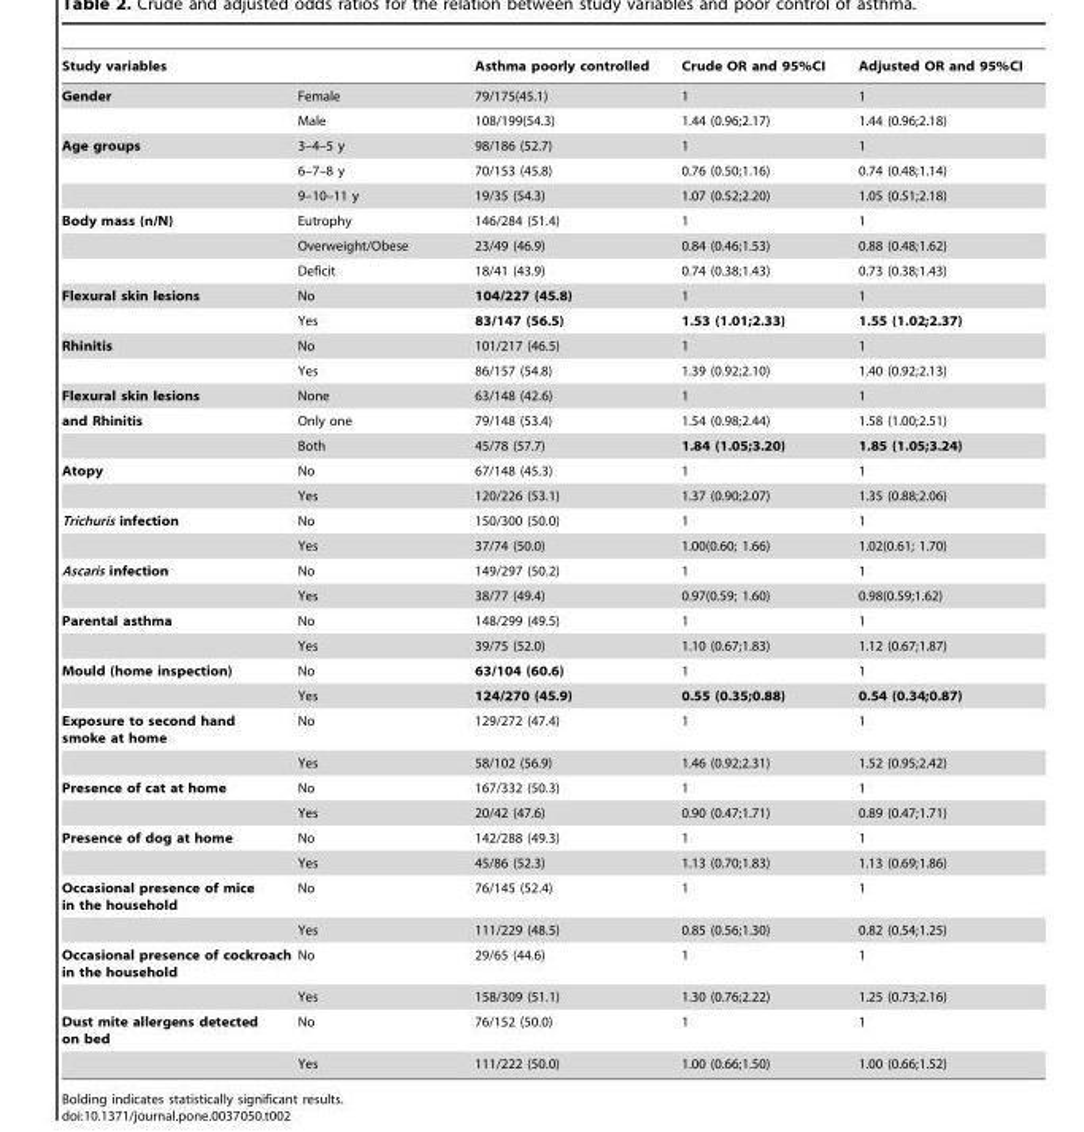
<table><thead><tr><td>Study variables</td><td></td><td>Asthma poorly controlled</td><td>Crude OR and 95%CI</td><td>Adjusted OR and 95%CI</td></tr></thead><tbody><tr><td rowspan="2">Gender</td><td>Female</td><td>79/175(45.1)</td><td>1</td><td>1</td></tr><tr><td>Male</td><td>108/199(54.3)</td><td>1.44 (0.96;2.17)</td><td>1.44 (0.96;2.18)</td></tr><tr><td rowspan="3">Age groups</td><td>3–4–5 y</td><td>98/186 (52.7)</td><td>1</td><td>1</td></tr><tr><td>6–7–8 y</td><td>70/153 (45.8)</td><td>0.76 (0.50;1.16)</td><td>0.74 (0.48;1.14)</td></tr><tr><td>9–10–11 y</td><td>19/35 (54.3)</td><td>1.07 (0.52;2.20)</td><td>1.05 (0.51;2.18)</td></tr><tr><td rowspan="3">Body mass (n/N)</td><td>Eutrophy</td><td>146/284 (51.4)</td><td>1</td><td>1</td></tr><tr><td>Overweight/Obese</td><td>23/49 (46.9)</td><td>0.84 (0.46;1.53)</td><td>0.88 (0.48;1.62)</td></tr><tr><td>Deficit</td><td>18/41 (43.9)</td><td>0.74 (0.38;1.43)</td><td>0.73 (0.38;1.43)</td></tr><tr><td rowspan="2">Flexural skin lesions</td><td>No</td><td>104/227 (45.8)</td><td>1</td><td>1</td></tr><tr><td>Yes</td><td>83/147 (56.5)</td><td>1.53 (1.01;2.33)</td><td>1.55 (1.02;2.37)</td></tr><tr><td rowspan="2">Rhinitis</td><td>No</td><td>101/217 (46.5)</td><td>1</td><td>1</td></tr><tr><td>Yes</td><td>86/157 (54.8)</td><td>1.39 (0.92;2.10)</td><td>1.40 (0.92;2.13)</td></tr><tr><td>Flexural skin lesions</td><td>None</td><td>63/148 (42.6)</td><td>1</td><td>1</td></tr><tr><td rowspan="2">and Rhinitis</td><td>Only one</td><td>79/148 (53.4)</td><td>1.54 (0.98;2.44)</td><td>1.58 (1.00;2.51)</td></tr><tr><td>Both</td><td>45/78 (57.7)</td><td>1.84 (1.05;3.20)</td><td>1.85 (1.05;3.24)</td></tr><tr><td rowspan="2">Atopy</td><td>No</td><td>67/148 (45.3)</td><td>1</td><td>1</td></tr><tr><td>Yes</td><td>120/226 (53.1)</td><td>1.37 (0.90;2.07)</td><td>1.35 (0.88;2.06)</td></tr><tr><td rowspan="2">Trichuris infection</td><td>No</td><td>150/300 (50.0)</td><td>1</td><td>1</td></tr><tr><td>Yes</td><td>37/74 (50.0)</td><td>1.00(0.60; 1.66)</td><td>1.02(0.61; 1.70)</td></tr><tr><td rowspan="2">Ascaris infection</td><td>No</td><td>149/297 (50.2)</td><td>1</td><td>1</td></tr><tr><td>Yes</td><td>38/77 (49.4)</td><td>0.97(0.59; 1.60)</td><td>0.98(0.59;1.62)</td></tr><tr><td rowspan="2">Parental asthma</td><td>No</td><td>148/299 (49.5)</td><td>1</td><td>1</td></tr><tr><td>Yes</td><td>39/75 (52.0)</td><td>1.10 (0.67;1.83)</td><td>1.12 (0.67;1.87)</td></tr><tr><td rowspan="2">Mould (home inspection)</td><td>No</td><td>63/104 (60.6)</td><td>1</td><td>1</td></tr><tr><td>Yes</td><td>124/270 (45.9)</td><td>0.55 (0.35;0.88)</td><td>0.54 (0.34;0.87)</td></tr><tr><td rowspan="2">Exposure to second hand smoke at home</td><td>No</td><td>129/272 (47.4)</td><td>1</td><td>1</td></tr><tr><td>Yes</td><td>58/102 (56.9)</td><td>1.46 (0.92;2.31)</td><td>1.52 (0.95;2.42)</td></tr><tr><td rowspan="2">Presence of cat at home</td><td>No</td><td>167/332 (50.3)</td><td>1</td><td>1</td></tr><tr><td>Yes</td><td>20/42 (47.6)</td><td>0.90 (0.47;1.71)</td><td>0.89 (0.47;1.71)</td></tr><tr><td rowspan="2">Presence of dog at home</td><td>No</td><td>142/288 (49.3)</td><td>1</td><td>1</td></tr><tr><td>Yes</td><td>45/86 (52.3)</td><td>1.13 (0.70;1.83)</td><td>1.13 (0.69;1.86)</td></tr><tr><td rowspan="2">Occasional presence of mice in the household</td><td>No</td><td>76/145 (52.4)</td><td>1</td><td>1</td></tr><tr><td>Yes</td><td>111/229 (48.5)</td><td>0.85 (0.56;1.30)</td><td>0.82 (0.54;1.25)</td></tr><tr><td rowspan="2">Occasional presence of cockroach in the household</td><td>No</td><td>29/65 (44.6)</td><td>1</td><td>1</td></tr><tr><td>Yes</td><td>158/309 (51.1)</td><td>1.30 (0.76;2.22)</td><td>1.25 (0.73;2.16)</td></tr><tr><td rowspan="2">Dust mite allergens detected on bed</td><td>No</td><td>76/152 (50.0)</td><td>1</td><td>1</td></tr><tr><td>Yes</td><td>111/222 (50.0)</td><td>1.00 (0.66;1.50)</td><td>1.00 (0.66;1.52)</td></tr></tbody></table>